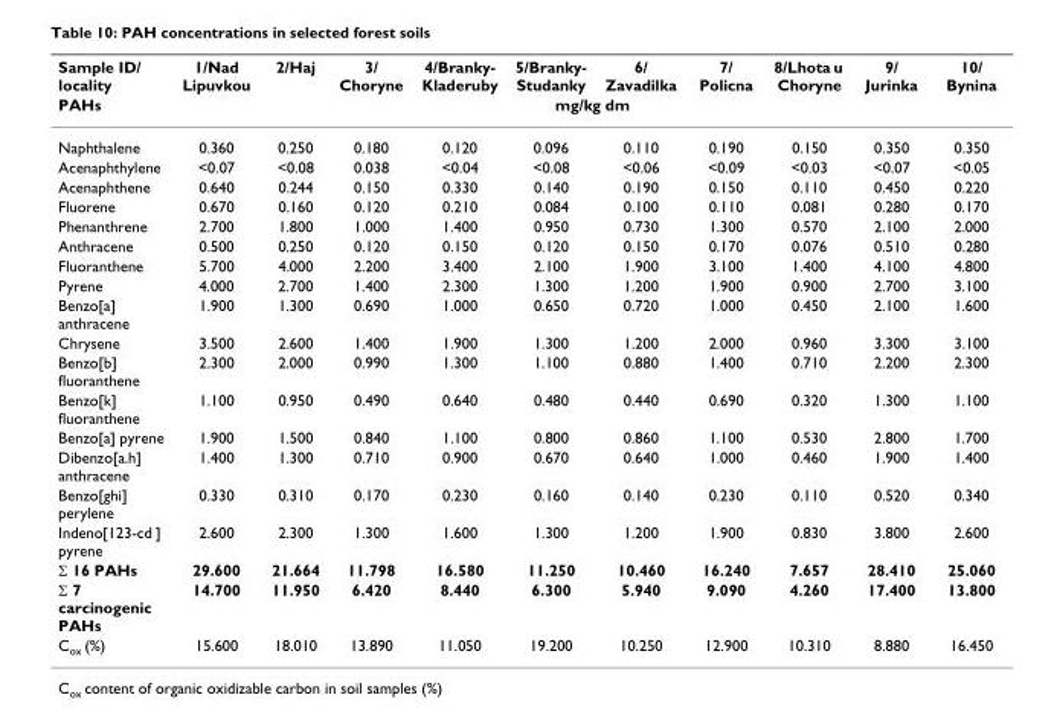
<table><thead><tr><td rowspan="2">Sample ID/ locality PAHs</td><td>1/Nad Lipuvkou</td><td>2/Haj</td><td>3/ Choryne</td><td>4/Branky- Kladeruby</td><td>5/Branky- Studanky</td><td>6/ Zavadilka</td><td>7/ Policna</td><td>8/Lhota u Choryne</td><td>9/ Jurinka</td><td>10/ Bynina</td></tr><tr><td colspan="10">mg/kg dm</td></tr></thead><tbody><tr><td>Naphthalene</td><td>0.360</td><td>0.250</td><td>0.180</td><td>0.120</td><td>0.096</td><td>0.110</td><td>0.190</td><td>0.150</td><td>0.350</td><td>0.350</td></tr><tr><td>Acenaphthylene</td><td>&lt;0.07</td><td>&lt;0.08</td><td>0.038</td><td>&lt;0.04</td><td>&lt;0.08</td><td>&lt;0.06</td><td>&lt;0.09</td><td>&lt;0.03</td><td>&lt;0.07</td><td>&lt;0.05</td></tr><tr><td>Acenaphthene</td><td>0.640</td><td>0.244</td><td>0.150</td><td>0.330</td><td>0.140</td><td>0.190</td><td>0.150</td><td>0.110</td><td>0.450</td><td>0.220</td></tr><tr><td>Fluorene</td><td>0.670</td><td>0.160</td><td>0.120</td><td>0.210</td><td>0.084</td><td>0.100</td><td>0.110</td><td>0.081</td><td>0.280</td><td>0.170</td></tr><tr><td>Phenanthrene</td><td>2.700</td><td>1.800</td><td>1.000</td><td>1.400</td><td>0.950</td><td>0.730</td><td>1.300</td><td>0.570</td><td>2.100</td><td>2.000</td></tr><tr><td>Anthracene</td><td>0.500</td><td>0.250</td><td>0.120</td><td>0.150</td><td>0.120</td><td>0.150</td><td>0.170</td><td>0.076</td><td>0.510</td><td>0.280</td></tr><tr><td>Fluoranthene</td><td>5.700</td><td>4.000</td><td>2.200</td><td>3.400</td><td>2.100</td><td>1.900</td><td>3.100</td><td>1.400</td><td>4.100</td><td>4.800</td></tr><tr><td>Pyrene</td><td>4.000</td><td>2.700</td><td>1.400</td><td>2.300</td><td>1.300</td><td>1.200</td><td>1.900</td><td>0.900</td><td>2.700</td><td>3.100</td></tr><tr><td>Benzo[a] anthracene</td><td>1.900</td><td>1.300</td><td>0.690</td><td>1.000</td><td>0.650</td><td>0.720</td><td>1.000</td><td>0.450</td><td>2.100</td><td>1.600</td></tr><tr><td>Chrysene</td><td>3.500</td><td>2.600</td><td>1.400</td><td>1.900</td><td>1.300</td><td>1.200</td><td>2.000</td><td>0.960</td><td>3.300</td><td>3.100</td></tr><tr><td>Benzo[b] fluoranthene</td><td>2.300</td><td>2.000</td><td>0.990</td><td>1.300</td><td>1.100</td><td>0.880</td><td>1.400</td><td>0.710</td><td>2.200</td><td>2.300</td></tr><tr><td>Benzo[k] fluoranthene</td><td>1.100</td><td>0.950</td><td>0.490</td><td>0.640</td><td>0.480</td><td>0.440</td><td>0.690</td><td>0.320</td><td>1.300</td><td>1.100</td></tr><tr><td>Benzo[a] pyrene</td><td>1.900</td><td>1.500</td><td>0.840</td><td>1.100</td><td>0.800</td><td>0.860</td><td>1.100</td><td>0.530</td><td>2.800</td><td>1.700</td></tr><tr><td>Dibenzo[a.h] anthracene</td><td>1.400</td><td>1.300</td><td>0.710</td><td>0.900</td><td>0.670</td><td>0.640</td><td>1.000</td><td>0.460</td><td>1.900</td><td>1.400</td></tr><tr><td>Benzo[ghi] perylene</td><td>0.330</td><td>0.310</td><td>0.170</td><td>0.230</td><td>0.160</td><td>0.140</td><td>0.230</td><td>0.110</td><td>0.520</td><td>0.340</td></tr><tr><td>Indeno[123-cd ] pyrene</td><td>2.600</td><td>2.300</td><td>1.300</td><td>1.600</td><td>1.300</td><td>1.200</td><td>1.900</td><td>0.830</td><td>3.800</td><td>2.600</td></tr><tr><td>Σ 16 PAHs</td><td>29.600</td><td>21.664</td><td>11.798</td><td>16.580</td><td>11.250</td><td>10.460</td><td>16.240</td><td>7.657</td><td>28.410</td><td>25.060</td></tr><tr><td>Σ 7 carcinogenic PAHs</td><td>14.700</td><td>11.950</td><td>6.420</td><td>8.440</td><td>6.300</td><td>5.940</td><td>9.090</td><td>4.260</td><td>17.400</td><td>13.800</td></tr><tr><td>C<sub>ox</sub> (%)</td><td>15.600</td><td>18.010</td><td>13.890</td><td>11.050</td><td>19.200</td><td>10.250</td><td>12.900</td><td>10.310</td><td>8.880</td><td>16.450</td></tr></tbody></table>